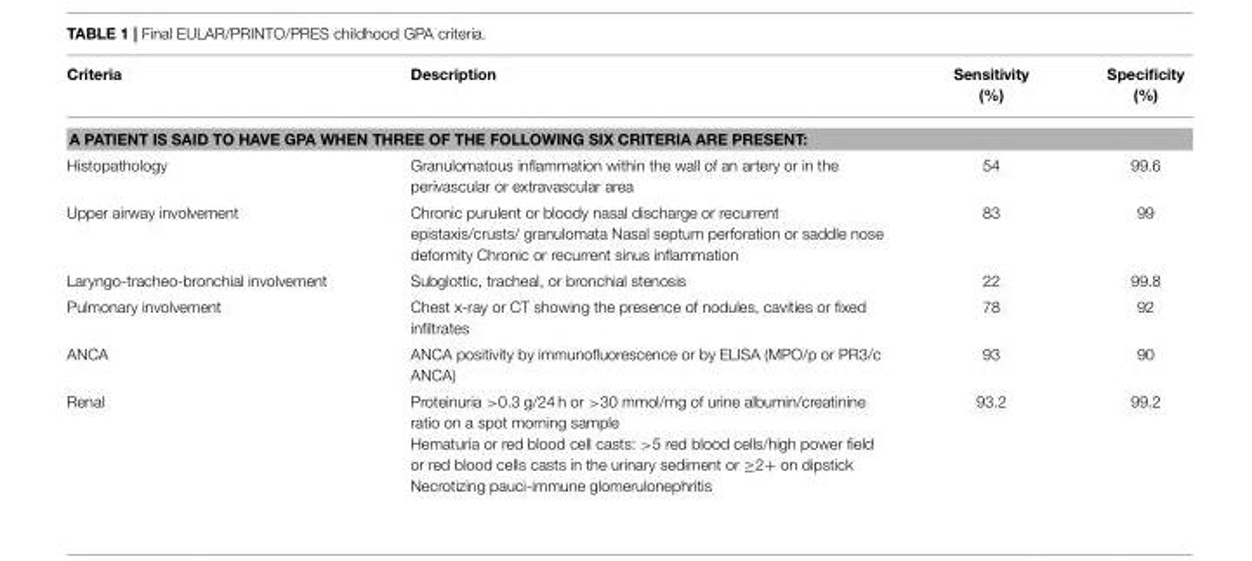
<table><thead><tr><td>Criteria</td><td>Description</td><td>Sensitivity (%)</td><td>Specificity (%)</td></tr></thead><tbody><tr><td colspan="4">A PATIENT IS SAID TO HAVE GPA WHEN THREE OF THE FOLLOWING SIX CRITERIA ARE PRESENT:</td></tr><tr><td>Histopathology</td><td>Granulomatous inflammation within the wall of an artery or in the perivascular or extravascular area</td><td>54</td><td>99.6</td></tr><tr><td>Upper airway involvement</td><td>Chronic purulent or bloody nasal discharge or recurrent epistaxis/crusts/ granulomata Nasal septum perforation or saddle nose deformity Chronic or recurrent sinus inflammation</td><td>83</td><td>99</td></tr><tr><td>Laryngo-tracheo-bronchial involvement</td><td>Subglottic, tracheal, or bronchial stenosis</td><td>22</td><td>99.8</td></tr><tr><td>Pulmonary involvement</td><td>Chest x-ray or CT showing the presence of nodules, cavities or fixed infiltrates</td><td>78</td><td>92</td></tr><tr><td>ANCA</td><td>ANCA positivity by immunofluorescence or by ELISA (MPO/p or PR3/c ANCA)</td><td>93</td><td>90</td></tr><tr><td>Renal</td><td>Proteinuria &gt;0.3 g/24 h or &gt;30 mmol/mg of urine albumin/creatinine ratio on a spot morning sample Hematuria or red blood cell casts: &gt;5 red blood cells/high power field or red blood cells casts in the urinary sediment or ≥2+ on dipstick Necrotizing pauci-immune glomerulonephritis</td><td>93.2</td><td>99.2</td></tr></tbody></table>